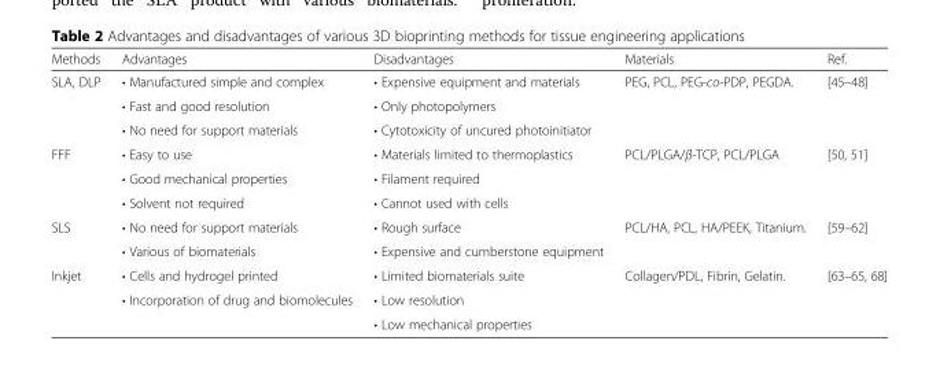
<table><thead><tr><td>Methods</td><td>Advantages</td><td>Disadvantages</td><td>Materials</td><td>Ref.</td></tr></thead><tbody><tr><td rowspan="3">SLA, DLP</td><td>• Manufactured simple and complex</td><td>• Expensive equipment and materials</td><td rowspan="3">PEG, PCL, PEG-co-PDP, PEGDA.</td><td rowspan="3">[45–48]</td></tr><tr><td>• Fast and good resolution</td><td>• Only photopolymers</td></tr><tr><td>• No need for support materials</td><td>• Cytotoxicity of uncured photoinitiator</td></tr><tr><td rowspan="3">FFF</td><td>• Easy to use</td><td>• Materials limited to thermoplastics</td><td rowspan="3">PCL/PLGA/β-TCP, PCL/PLGA</td><td rowspan="3">[50, 51]</td></tr><tr><td>• Good mechanical properties</td><td>• Filament required</td></tr><tr><td>• Solvent not required</td><td>• Cannot used with cells</td></tr><tr><td rowspan="2">SLS</td><td>• No need for support materials</td><td>• Rough surface</td><td rowspan="2">PCL/HA, PCL, HA/PEEK, Titanium.</td><td rowspan="2">[59–62]</td></tr><tr><td>• Various of biomaterials</td><td>• Expensive and cumberstone equipment</td></tr><tr><td rowspan="3">Inkjet</td><td>• Cells and hydrogel printed</td><td>• Limited biomaterials suite</td><td rowspan="3">Collagen/PDL, Fibrin, Gelatin.</td><td rowspan="3">[63–65, 68]</td></tr><tr><td rowspan="2">• Incorporation of drug and biomolecules</td><td>• Low resolution</td></tr><tr><td>• Low mechanical properties</td></tr></tbody></table>